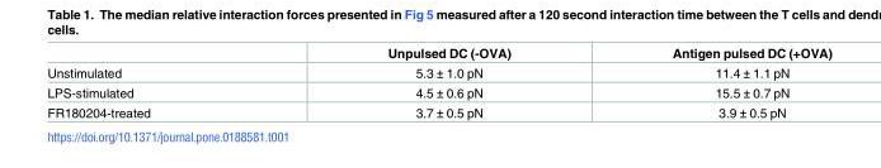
<table><thead><tr><td></td><td>Unpulsed DC (-OVA)</td><td>Antigen pulsed DC (+OVA)</td></tr></thead><tbody><tr><td>Unstimulated</td><td>5.3 ± 1.0 pN</td><td>11.4 ± 1.1 pN</td></tr><tr><td>LPS-stimulated</td><td>4.5 ± 0.6 pN</td><td>15.5 ± 0.7 pN</td></tr><tr><td>FR180204-treated</td><td>3.7 ± 0.5 pN</td><td>3.9 ± 0.5 pN</td></tr></tbody></table>